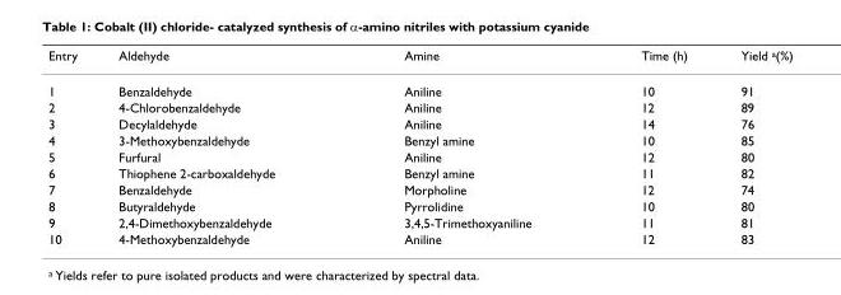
<table><thead><tr><td>Entry</td><td>Aldehyde</td><td>Amine</td><td>Time (h)</td><td>Yield <sup>a</sup>(%)</td></tr></thead><tbody><tr><td>1</td><td>Benzaldehyde</td><td>Aniline</td><td>10</td><td>91</td></tr><tr><td>2</td><td>4-Chlorobenzaldehyde</td><td>Aniline</td><td>12</td><td>89</td></tr><tr><td>3</td><td>Decylaldehyde</td><td>Aniline</td><td>14</td><td>76</td></tr><tr><td>4</td><td>3-Methoxybenzaldehyde</td><td>Benzyl amine</td><td>10</td><td>85</td></tr><tr><td>5</td><td>Furfural</td><td>Aniline</td><td>12</td><td>80</td></tr><tr><td>6</td><td>Thiophene 2-carboxaldehyde</td><td>Benzyl amine</td><td>11</td><td>82</td></tr><tr><td>7</td><td>Benzaldehyde</td><td>Morpholine</td><td>12</td><td>74</td></tr><tr><td>8</td><td>Butyraldehyde</td><td>Pyrrolidine</td><td>10</td><td>80</td></tr><tr><td>9</td><td>2,4-Dimethoxybenzaldehyde</td><td>3,4,5-Trimethoxyaniline</td><td>11</td><td>81</td></tr><tr><td>10</td><td>4-Methoxybenzaldehyde</td><td>Aniline</td><td>12</td><td>83</td></tr></tbody></table>